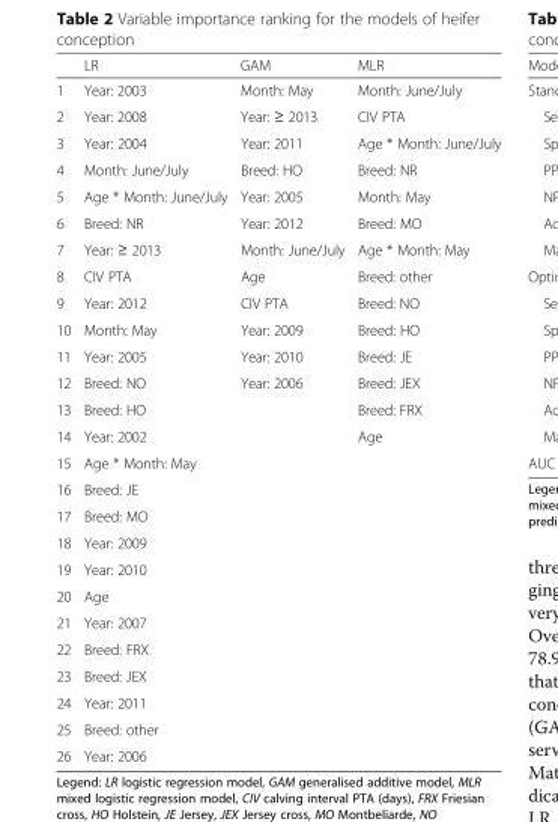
<table><thead><tr><td></td><td>LR</td><td>GAM</td><td>MLR</td></tr></thead><tbody><tr><td>1</td><td>Year: 2003</td><td>Month: May</td><td>Month: June/July</td></tr><tr><td>2</td><td>Year: 2008</td><td>Year: ≥ 2013</td><td>CIV PTA</td></tr><tr><td>3</td><td>Year: 2004</td><td>Year: 2011</td><td>Age * Month: June/July</td></tr><tr><td>4</td><td>Month: June/July</td><td>Breed: HO</td><td>Breed: NR</td></tr><tr><td>5</td><td>Age * Month: June/July</td><td>Year: 2005</td><td>Month: May</td></tr><tr><td>6</td><td>Breed: NR</td><td>Year: 2012</td><td>Breed: MO</td></tr><tr><td>7</td><td>Year: ≥ 2013</td><td>Month: June/July</td><td>Age * Month: May</td></tr><tr><td>8</td><td>CIV PTA</td><td>Age</td><td>Breed: other</td></tr><tr><td>9</td><td>Year: 2012</td><td>CIV PTA</td><td>Breed: NO</td></tr><tr><td>10</td><td>Month: May</td><td>Year: 2009</td><td>Breed: HO</td></tr><tr><td>11</td><td>Year: 2005</td><td>Year: 2010</td><td>Breed: JE</td></tr><tr><td>12</td><td>Breed: NO</td><td>Year: 2006</td><td>Breed: JEX</td></tr><tr><td>13</td><td>Breed: HO</td><td></td><td>Breed: FRX</td></tr><tr><td>14</td><td>Year: 2002</td><td></td><td>Age</td></tr><tr><td>15</td><td>Age * Month: May</td><td></td><td></td></tr><tr><td>16</td><td>Breed: JE</td><td></td><td></td></tr><tr><td>17</td><td>Breed: MO</td><td></td><td></td></tr><tr><td>18</td><td>Year: 2009</td><td></td><td></td></tr><tr><td>19</td><td>Year: 2010</td><td></td><td></td></tr><tr><td>20</td><td>Age</td><td></td><td></td></tr><tr><td>21</td><td>Year: 2007</td><td></td><td></td></tr><tr><td>22</td><td>Breed: FRX</td><td></td><td></td></tr><tr><td>23</td><td>Breed: JEX</td><td></td><td></td></tr><tr><td>24</td><td>Year: 2011</td><td></td><td></td></tr><tr><td>25</td><td>Breed: other</td><td></td><td></td></tr><tr><td>26</td><td>Year: 2006</td><td></td><td></td></tr></tbody></table>